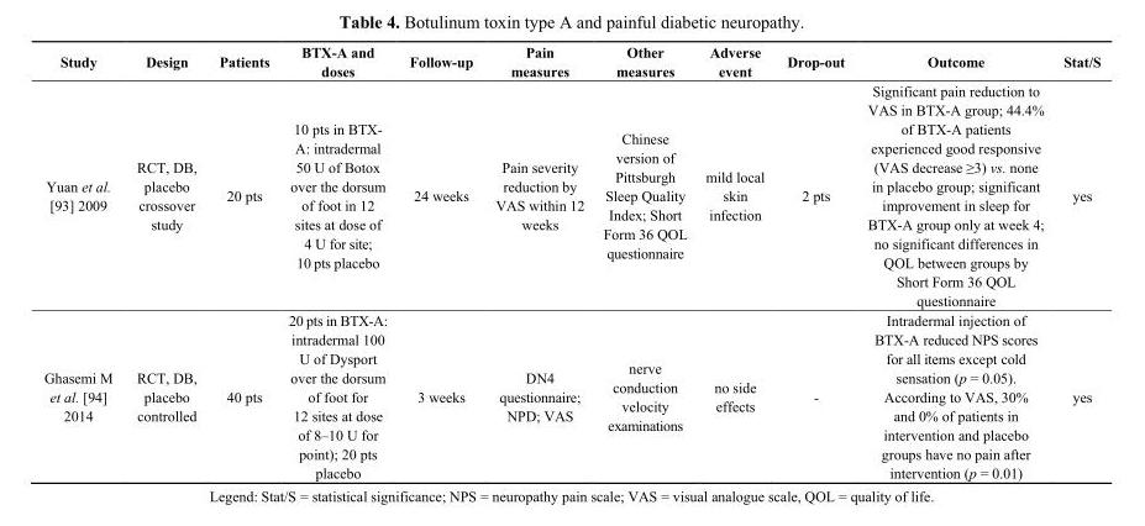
<table><thead><tr><td>Study</td><td>Design</td><td>Patients</td><td>BTX-A and doses</td><td>Follow-up</td><td>Pain measures</td><td>Other measures</td><td>Adverse event</td><td>Drop-out</td><td>Outcome</td><td>Stat/S</td></tr></thead><tbody><tr><td>Yuan et al. [93] 2009</td><td>RCT, DB, placebo crossover study</td><td>20 pts</td><td>10 pts in BTX- A: intradermal 50 U of Botox over the dorsum of foot in 12 sites at dose of 4 U for site; 10 pts placebo</td><td>24 weeks</td><td>Pain severity reduction by VAS within 12 weeks</td><td>Chinese version of Pittsburgh Sleep Quality Index; Short Form 36 QOL questionnaire</td><td>mild local skin infection</td><td>2 pts</td><td>Significant pain reduction to VAS in BTX-A group; 44.4% of BTX-A patients experienced good responsive (VAS decrease ≥3) vs. none in placebo group; significant improvement in sleep for BTX-A group only at week 4; no significant differences in QOL between groups by Short Form 36 QOL questionnaire</td><td>yes</td></tr><tr><td>Ghasemi M et al. [94] 2014</td><td>RCT, DB, placebo controlled</td><td>40 pts</td><td>20 pts in BTX-A: intradermal 100 U of Dysport over the dorsum of foot for 12 sites at dose of 8–10 U for point); 20 pts placebo</td><td>3 weeks</td><td>DN4 questionnaire; NPD; VAS</td><td>nerve conduction velocity examinations</td><td>no side effects</td><td>-</td><td>Intradermal injection of BTX-A reduced NPS scores for all items except cold sensation (p = 0.05). According to VAS, 30% and 0% of patients in intervention and placebo groups have no pain after intervention (p = 0.01)</td><td>yes</td></tr></tbody></table>